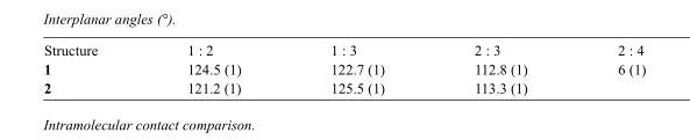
<table><tbody><tr><td>Structure</td><td>1 : 2</td><td>1 : 3</td><td>2 : 3</td><td>2 : 4</td></tr><tr><td>1</td><td>124.5 (1)</td><td>122.7 (1)</td><td>112.8 (1)</td><td>6 (1)</td></tr><tr><td>2</td><td>121.2 (1)</td><td>125.5 (1)</td><td>113.3 (1)</td><td></td></tr></tbody></table>